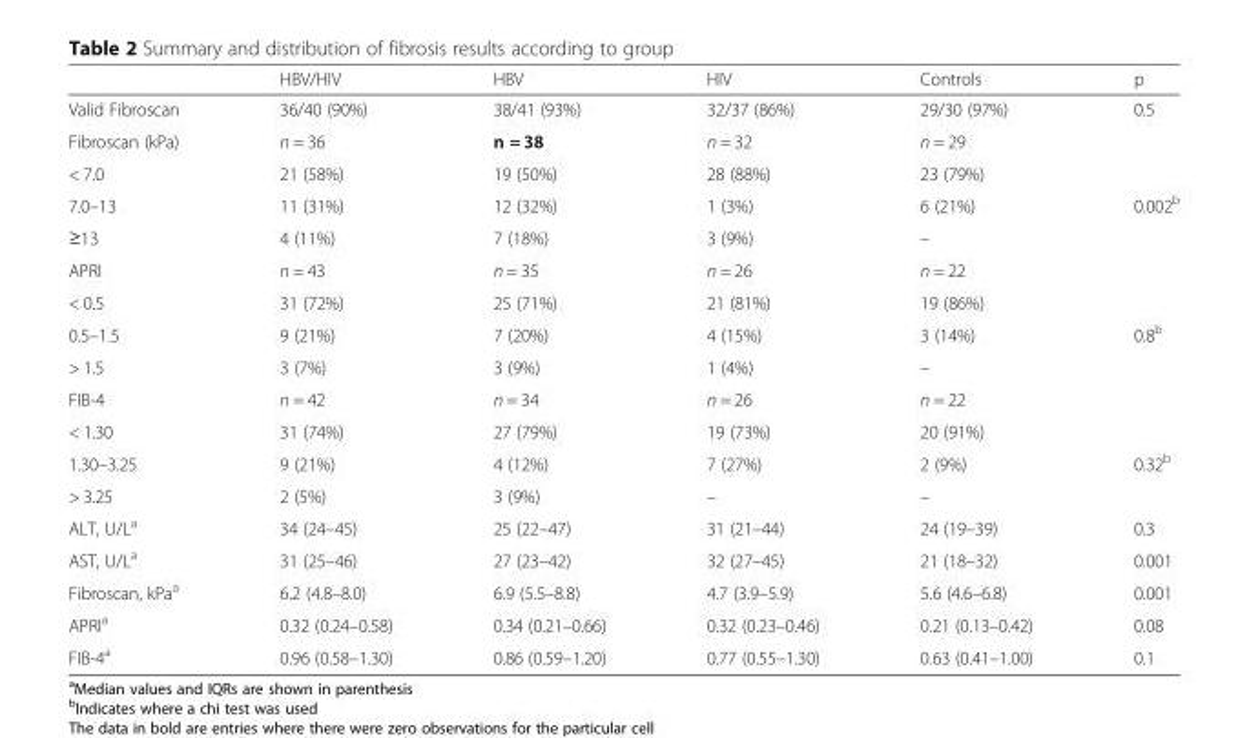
<table><thead><tr><td></td><td>HBV/HIV</td><td>HBV</td><td>HIV</td><td>Controls</td><td>p</td></tr></thead><tbody><tr><td>Valid Fibroscan</td><td>36/40 (90%)</td><td>38/41 (93%)</td><td>32/37 (86%)</td><td>29/30 (97%)</td><td>0.5</td></tr><tr><td>Fibroscan (kPa)</td><td>n = 36</td><td>n = 38</td><td>n = 32</td><td>n = 29</td><td></td></tr><tr><td>&lt; 7.0</td><td>21 (58%)</td><td>19 (50%)</td><td>28 (88%)</td><td>23 (79%)</td><td></td></tr><tr><td>7.0–13</td><td>11 (31%)</td><td>12 (32%)</td><td>1 (3%)</td><td>6 (21%)</td><td>0.002<sup>b</sup></td></tr><tr><td>≥13</td><td>4 (11%)</td><td>7 (18%)</td><td>3 (9%)</td><td>–</td><td></td></tr><tr><td>APRI</td><td>n = 43</td><td>n = 35</td><td>n = 26</td><td>n = 22</td><td></td></tr><tr><td>&lt; 0.5</td><td>31 (72%)</td><td>25 (71%)</td><td>21 (81%)</td><td>19 (86%)</td><td></td></tr><tr><td>0.5–1.5</td><td>9 (21%)</td><td>7 (20%)</td><td>4 (15%)</td><td>3 (14%)</td><td>0.8<sup>b</sup></td></tr><tr><td>&gt; 1.5</td><td>3 (7%)</td><td>3 (9%)</td><td>1 (4%)</td><td>–</td><td></td></tr><tr><td>FIB-4</td><td>n = 42</td><td>n = 34</td><td>n = 26</td><td>n = 22</td><td></td></tr><tr><td>&lt; 1.30</td><td>31 (74%)</td><td>27 (79%)</td><td>19 (73%)</td><td>20 (91%)</td><td></td></tr><tr><td>1.30–3.25</td><td>9 (21%)</td><td>4 (12%)</td><td>7 (27%)</td><td>2 (9%)</td><td>0.32<sup>b</sup></td></tr><tr><td>&gt; 3.25</td><td>2 (5%)</td><td>3 (9%)</td><td>–</td><td>–</td><td></td></tr><tr><td>ALT, U/L<sup>a</sup></td><td>34 (24–45)</td><td>25 (22–47)</td><td>31 (21–44)</td><td>24 (19–39)</td><td>0.3</td></tr><tr><td>AST, U/L<sup>a</sup></td><td>31 (25–46)</td><td>27 (23–42)</td><td>32 (27–45)</td><td>21 (18–32)</td><td>0.001</td></tr><tr><td>Fibroscan, kPa<sup>a</sup></td><td>6.2 (4.8–8.0)</td><td>6.9 (5.5–8.8)</td><td>4.7 (3.9–5.9)</td><td>5.6 (4.6–6.8)</td><td>0.001</td></tr><tr><td>APRI<sup>a</sup></td><td>0.32 (0.24–0.58)</td><td>0.34 (0.21–0.66)</td><td>0.32 (0.23–0.46)</td><td>0.21 (0.13–0.42)</td><td>0.08</td></tr><tr><td>FIB-4<sup>a</sup></td><td>0.96 (0.58–1.30)</td><td>0.86 (0.59–1.20)</td><td>0.77 (0.55–1.30)</td><td>0.63 (0.41–1.00)</td><td>0.1</td></tr></tbody></table>